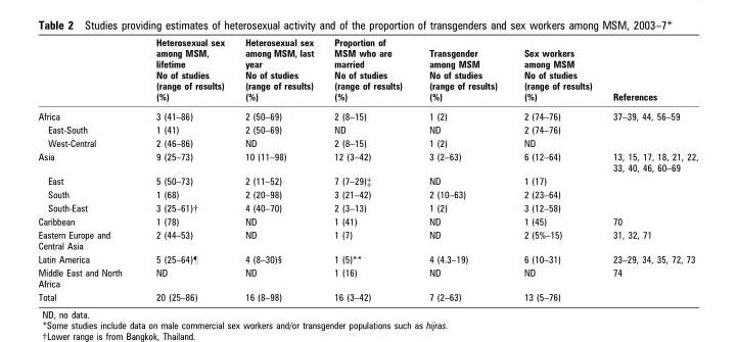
<table><thead><tr><td></td><td>Heterosexual sex among MSM, lifetime No of studies (range of results) (%)</td><td>Heterosexual sex among MSM, last year No of studies (range of results) (%)</td><td>Proportion of MSM who are married No of studies (range of results) (%)</td><td>Transgender among MSM No of studies (range of results) (%)</td><td>Sex workers among MSM No of studies (range of results) (%)</td><td>References</td></tr></thead><tbody><tr><td>Africa</td><td>3 (41–86)</td><td>2 (50–69)</td><td>2 (8–15)</td><td>1 (2)</td><td>2 (74–76)</td><td>37–39, 44, 56–59</td></tr><tr><td>East-South</td><td>1 (41)</td><td>2 (50–69)</td><td>ND</td><td>ND</td><td>2 (74–76)</td><td></td></tr><tr><td>West-Central</td><td>2 (46–86)</td><td>ND</td><td>2 (8–15)</td><td>1 (2)</td><td>ND</td><td></td></tr><tr><td>Asia</td><td>9 (25–73)</td><td>10 (11–98)</td><td>12 (3–42)</td><td>3 (2–63)</td><td>6 (12–64)</td><td>13, 15, 17, 18, 21, 22, 33, 40, 46, 60–69</td></tr><tr><td>East</td><td>5 (50–73)</td><td>2 (11–52)</td><td>7 (7–29)‡</td><td>ND</td><td>1 (17)</td><td></td></tr><tr><td>South</td><td>1 (68)</td><td>2 (20–98)</td><td>3 (21–42)</td><td>2 (10–63)</td><td>2 (23–64)</td><td></td></tr><tr><td>South-East</td><td>3 (25–61)†</td><td>4 (40–70)</td><td>2 (3–13)</td><td>1 (2)</td><td>3 (12–58)</td><td></td></tr><tr><td>Caribbean</td><td>1 (78)</td><td>ND</td><td>1 (41)</td><td>ND</td><td>1 (45)</td><td>70</td></tr><tr><td>Eastern Europe and Central Asia</td><td>2 (44–53)</td><td>ND</td><td>1 (7)</td><td>ND</td><td>2 (5%–15)</td><td>31, 32, 71</td></tr><tr><td>Latin America</td><td>5 (25–64)¶</td><td>4 (8–30)§</td><td>1 (5)**</td><td>4 (4.3–19)</td><td>6 (10–31)</td><td>23–29, 34, 35, 72, 73</td></tr><tr><td>Middle East and North Africa</td><td>ND</td><td>ND</td><td>1 (16)</td><td>ND</td><td>ND</td><td>74</td></tr><tr><td>Total</td><td>20 (25–86)</td><td>16 (8–98)</td><td>16 (3–42)</td><td>7 (2–63)</td><td>13 (5–76)</td><td></td></tr></tbody></table>